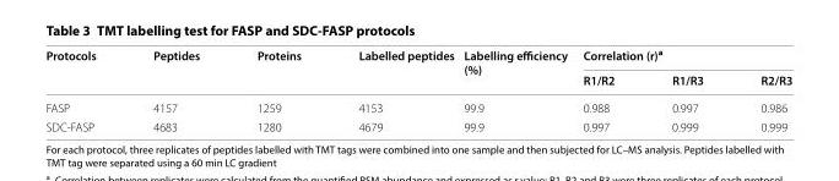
<table><thead><tr><td rowspan="2">Protocols</td><td rowspan="2">Peptides</td><td rowspan="2">Proteins</td><td rowspan="2">Labelled peptides</td><td rowspan="2">Labelling efficiency (%)</td><td colspan="3">Correlation (r)<sup>a</sup></td></tr><tr><td>R1/R2</td><td>R1/R3</td><td>R2/R3</td></tr></thead><tbody><tr><td>FASP</td><td>4157</td><td>1259</td><td>4153</td><td>99.9</td><td>0.988</td><td>0.997</td><td>0.986</td></tr><tr><td>SDC‑FASP</td><td>4683</td><td>1280</td><td>4679</td><td>99.9</td><td>0.997</td><td>0.999</td><td>0.999</td></tr></tbody></table>